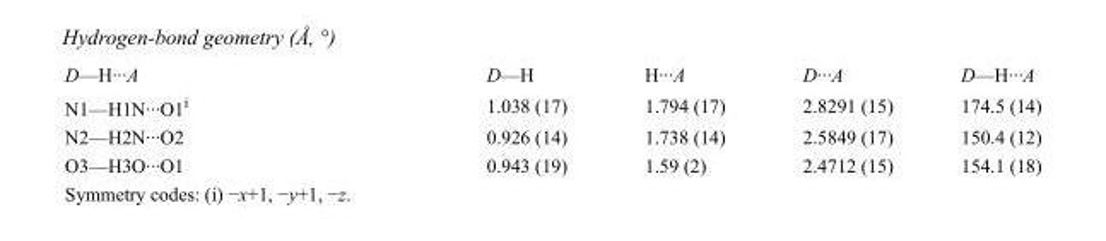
<table><tbody><tr><td>D—H···A</td><td>D—H</td><td>H···A</td><td>D···A</td><td>D—H···A</td></tr><tr><td>N1—H1N···O1<sup>i</sup></td><td>1.038 (17)</td><td>1.794 (17)</td><td>2.8291 (15)</td><td>174.5 (14)</td></tr><tr><td>N2—H2N···O2</td><td>0.926 (14)</td><td>1.738 (14)</td><td>2.5849 (17)</td><td>150.4 (12)</td></tr><tr><td>O3—H3O···O1</td><td>0.943 (19)</td><td>1.59 (2)</td><td>2.4712 (15)</td><td>154.1 (18)</td></tr></tbody></table>